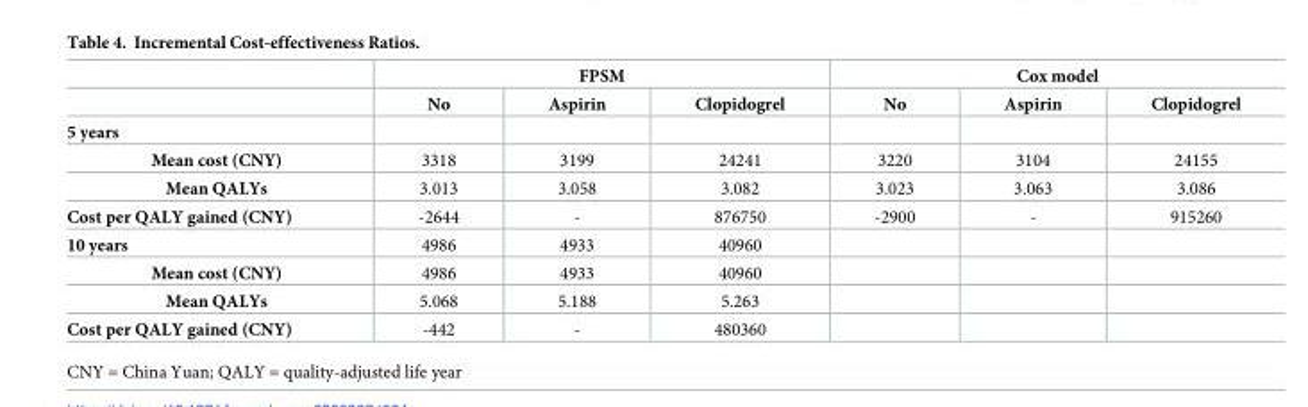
<table><thead><tr><td rowspan="2"></td><td colspan="3">FPSM</td><td colspan="3">Cox model</td></tr><tr><td>No</td><td>Aspirin</td><td>Clopidogrel</td><td>No</td><td>Aspirin</td><td>Clopidogrel</td></tr></thead><tbody><tr><td colspan="7">5 years</td></tr><tr><td>Mean cost (CNY)</td><td>3318</td><td>3199</td><td>24241</td><td>3220</td><td>3104</td><td>24155</td></tr><tr><td>Mean QALYs</td><td>3.013</td><td>3.058</td><td>3.082</td><td>3.023</td><td>3.063</td><td>3.086</td></tr><tr><td>Cost per QALY gained (CNY)</td><td>-2644</td><td>-</td><td>876750</td><td>-2900</td><td>-</td><td>915260</td></tr><tr><td>10 years</td><td>4986</td><td>4933</td><td>40960</td><td></td><td></td><td></td></tr><tr><td>Mean cost (CNY)</td><td>4986</td><td>4933</td><td>40960</td><td></td><td></td><td></td></tr><tr><td>Mean QALYs</td><td>5.068</td><td>5.188</td><td>5.263</td><td></td><td></td><td></td></tr><tr><td>Cost per QALY gained (CNY)</td><td>-442</td><td>-</td><td>480360</td><td></td><td></td><td></td></tr></tbody></table>